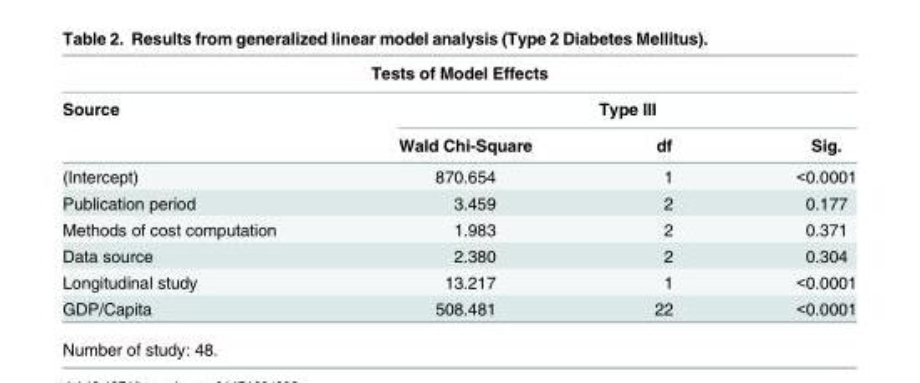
<table><thead><tr><td colspan="4">Tests of Model Effects</td></tr><tr><td rowspan="2">Source</td><td colspan="3">Type III</td></tr><tr><td>Wald Chi-Square</td><td>df</td><td>Sig.</td></tr></thead><tbody><tr><td>(Intercept)</td><td>870.654</td><td>1</td><td>&lt;0.0001</td></tr><tr><td>Publication period</td><td>3.459</td><td>2</td><td>0.177</td></tr><tr><td>Methods of cost computation</td><td>1.983</td><td>2</td><td>0.371</td></tr><tr><td>Data source</td><td>2.380</td><td>2</td><td>0.304</td></tr><tr><td>Longitudinal study</td><td>13.217</td><td>1</td><td>&lt;0.0001</td></tr><tr><td>GDP/Capita</td><td>508.481</td><td>22</td><td>&lt;0.0001</td></tr></tbody></table>